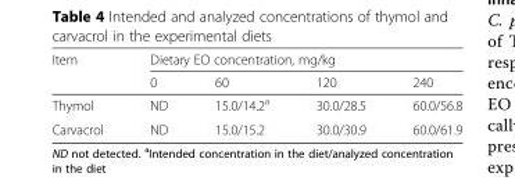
<table><thead><tr><td rowspan="2">Item</td><td colspan="4">Dietary EO concentration, mg/kg</td></tr><tr><td>0</td><td>60</td><td>120</td><td>240</td></tr></thead><tbody><tr><td>Thymol</td><td>ND</td><td>15.0/14.2<sup>a</sup></td><td>30.0/28.5</td><td>60.0/56.8</td></tr><tr><td>Carvacrol</td><td>ND</td><td>15.0/15.2</td><td>30.0/30.9</td><td>60.0/61.9</td></tr></tbody></table>